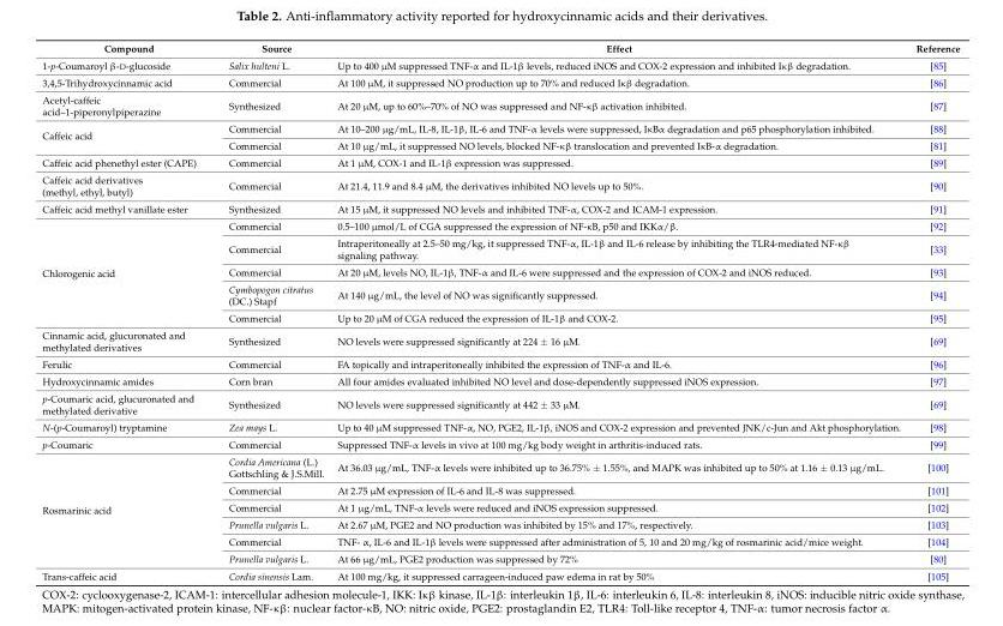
<table><thead><tr><td>Compound</td><td>Source</td><td>Effect</td><td>Reference</td></tr></thead><tbody><tr><td>1-p-Coumaroyl β-D-glucoside</td><td>Salix hulteni L.</td><td>Up to 400 µM suppressed TNF-α and IL-1β levels, reduced iNOS and COX-2 expression and inhibited Iκβ degradation.</td><td>[85]</td></tr><tr><td>3,4,5-Trihydroxycinnamic acid</td><td>Commercial</td><td>At 100 µM, it suppressed NO production up to 70% and reduced Iκβ degradation.</td><td>[86]</td></tr><tr><td>Acetyl-caffeic acid–1-piperonylpiperazine</td><td>Synthesized</td><td>At 20 µM, up to 60%–70% of NO was suppressed and NF-κβ activation inhibited.</td><td>[87]</td></tr><tr><td rowspan="2">Caffeic acid</td><td>Commercial</td><td>At 10–200 µg/mL, IL-8, IL-1β, IL-6 and TNF-α levels were suppressed, IκBα degradation and p65 phosphorylation inhibited.</td><td>[88]</td></tr><tr><td>Commercial</td><td>At 10 µg/mL, it suppressed NO levels, blocked NF-κβ translocation and prevented IκB-α degradation.</td><td>[81]</td></tr><tr><td>Caffeic acid phenethyl ester (CAPE)</td><td>Commercial</td><td>At 1 µM, COX-1 and IL-1β expression was suppressed.</td><td>[89]</td></tr><tr><td>Caffeic acid derivatives (methyl, ethyl, butyl)</td><td>Commercial</td><td>At 21.4, 11.9 and 8.4 µM, the derivatives inhibited NO levels up to 50%.</td><td>[90]</td></tr><tr><td>Caffeic acid methyl vanillate ester</td><td>Synthesized</td><td>At 15 µM, it suppressed NO levels and inhibited TNF-α, COX-2 and ICAM-1 expression.</td><td>[91]</td></tr><tr><td rowspan="5">Chlorogenic acid</td><td>Commercial</td><td>0.5–100 µmol/L of CGA suppressed the expression of NF-κB, p50 and IKKα/β.</td><td>[92]</td></tr><tr><td>Commercial</td><td>Intraperitoneally at 2.5–50 mg/kg, it suppressed TNF-α, IL-1β and IL-6 release by inhibiting the TLR4-mediated NF-κβ signaling pathway.</td><td>[33]</td></tr><tr><td>Commercial</td><td>At 20 µM, levels NO, IL-1β, TNF-α and IL-6 were suppressed and the expression of COX-2 and iNOS reduced.</td><td>[93]</td></tr><tr><td>Cymbopogon citratus (DC.) Stapf</td><td>At 140 µg/mL, the level of NO was significantly suppressed.</td><td>[94]</td></tr><tr><td>Commercial</td><td>Up to 20 µM of CGA reduced the expression of IL-1β and COX-2.</td><td>[95]</td></tr><tr><td>Cinnamic acid, glucuronated and methylated derivatives</td><td>Synthesized</td><td>NO levels were suppressed significantly at 224 ± 16 µM.</td><td>[69]</td></tr><tr><td>Ferulic</td><td>Commercial</td><td>FA topically and intraperitoneally inhibited the expression of TNF-α and IL-6.</td><td>[96]</td></tr><tr><td>Hydroxycinnamic amides</td><td>Corn bran</td><td>All four amides evaluated inhibited NO level and dose-dependently suppressed iNOS expression.</td><td>[97]</td></tr><tr><td>p-Coumaric acid, glucuronated and methylated derivative</td><td>Synthesized</td><td>NO levels were suppressed significantly at 442 ± 33 µM.</td><td>[69]</td></tr><tr><td>N-(p-Coumaroyl) tryptamine</td><td>Zea mays L.</td><td>Up to 40 µM suppressed TNF-α, NO, PGE2, IL-1β, iNOS and COX-2 expression and prevented JNK/c-Jun and Akt phosphorylation.</td><td>[98]</td></tr><tr><td>p-Coumaric</td><td>Commercial</td><td>Suppressed TNF-α levels in vivo at 100 mg/kg body weight in arthritis-induced rats.</td><td>[99]</td></tr><tr><td rowspan="6">Rosmarinic acid</td><td>Cordia Americana (L.) Gottschling &amp; J.S.Mill.</td><td>At 36.03 µg/mL, TNF-α levels were inhibited up to 36.75% ± 1.55%, and MAPK was inhibited up to 50% at 1.16 ± 0.13 µg/mL.</td><td>[100]</td></tr><tr><td>Commercial</td><td>At 2.75 µM expression of IL-6 and IL-8 was suppressed.</td><td>[101]</td></tr><tr><td>Commercial</td><td>At 1 µg/mL, TNF-α levels were reduced and iNOS expression suppressed.</td><td>[102]</td></tr><tr><td>Prunella vulgaris L.</td><td>At 2.67 µM, PGE2 and NO production was inhibited by 15% and 17%, respectively.</td><td>[103]</td></tr><tr><td>Commercial</td><td>TNF- α, IL-6 and IL-1β levels were suppressed after administration of 5, 10 and 20 mg/kg of rosmarinic acid/mice weight.</td><td>[104]</td></tr><tr><td>Prunella vulgaris L.</td><td>At 66 µg/mL, PGE2 production was suppressed by 72%</td><td>[80]</td></tr><tr><td>Trans-caffeic acid</td><td>Cordia sinensis Lam.</td><td>At 100 mg/kg, it suppressed carrageen-induced paw edema in rat by 50%</td><td>[105]</td></tr></tbody></table>